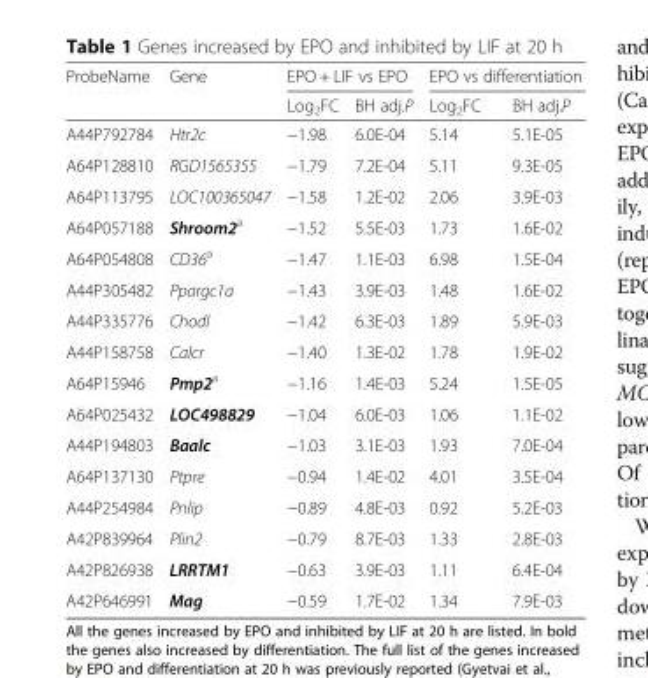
<table><thead><tr><td rowspan="2">ProbeName</td><td rowspan="2">Gene</td><td colspan="2">EPO + LIF vs EPO</td><td colspan="2">EPO vs differentiation</td></tr><tr><td>Log<sub>2</sub>FC</td><td>BH adj.P</td><td>Log<sub>2</sub>FC</td><td>BH adj.P</td></tr></thead><tbody><tr><td>A44P792784</td><td>Htr2c</td><td>−1.98</td><td>6.0E-04</td><td>5.14</td><td>5.1E-05</td></tr><tr><td>A64P128810</td><td>RGD1565355</td><td>−1.79</td><td>7.2E-04</td><td>5.11</td><td>9.3E-05</td></tr><tr><td>A64P113795</td><td>LOC100365047</td><td>−1.58</td><td>1.2E-02</td><td>2.06</td><td>3.9E-03</td></tr><tr><td>A64P057188</td><td>Shroom2<sup>a</sup></td><td>−1.52</td><td>5.5E-03</td><td>1.73</td><td>1.6E-02</td></tr><tr><td>A64P054808</td><td>CD36<sup>a</sup></td><td>−1.47</td><td>1.1E-03</td><td>6.98</td><td>1.5E-04</td></tr><tr><td>A44P305482</td><td>Ppargc1a</td><td>−1.43</td><td>3.9E-03</td><td>1.48</td><td>1.6E-02</td></tr><tr><td>A44P335776</td><td>Chodl</td><td>−1.42</td><td>6.3E-03</td><td>1.89</td><td>5.9E-03</td></tr><tr><td>A44P158758</td><td>Calcr</td><td>−1.40</td><td>1.3E-02</td><td>1.78</td><td>1.9E-02</td></tr><tr><td>A64P15946</td><td>Pmp2<sup>a</sup></td><td>−1.16</td><td>1.4E-03</td><td>5.24</td><td>1.5E-05</td></tr><tr><td>A64P025432</td><td>LOC498829</td><td>−1.04</td><td>6.0E-03</td><td>1.06</td><td>1.1E-02</td></tr><tr><td>A44P194803</td><td>Baalc</td><td>−1.03</td><td>3.1E-03</td><td>1.93</td><td>7.0E-04</td></tr><tr><td>A64P137130</td><td>Ptpre</td><td>−0.94</td><td>1.4E-02</td><td>4.01</td><td>3.5E-04</td></tr><tr><td>A44P254984</td><td>Pnlip</td><td>−0.89</td><td>4.8E-03</td><td>0.92</td><td>5.2E-03</td></tr><tr><td>A42P839964</td><td>Plin2</td><td>−0.79</td><td>8.7E-03</td><td>1.33</td><td>2.8E-03</td></tr><tr><td>A42P826938</td><td>LRRTM1</td><td>−0.63</td><td>3.9E-03</td><td>1.11</td><td>6.4E-04</td></tr><tr><td>A42P646991</td><td>Mag</td><td>−0.59</td><td>1.7E-02</td><td>1.34</td><td>7.9E-03</td></tr></tbody></table>